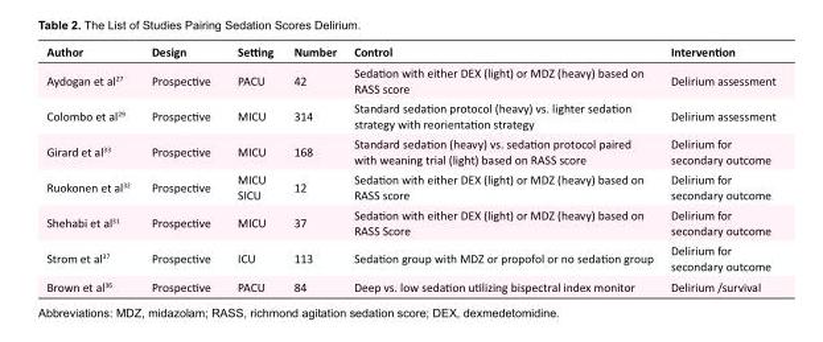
<table><tbody><tr><td>Author</td><td>Design</td><td>Setting</td><td>Number</td><td>Control</td><td>Intervention</td></tr><tr><td>Aydogan et al<sup>27</sup></td><td>Prospective</td><td>PACU</td><td>42</td><td>Sedation with either DEX (light) or MDZ (heavy) based on RASS score</td><td>Delirium assessment</td></tr><tr><td>Colombo et al<sup>29</sup></td><td>Prospective</td><td>MICU</td><td>314</td><td>Standard sedation protocol (heavy) vs. lighter sedation strategy with reorientation strategy</td><td>Delirium assessment</td></tr><tr><td>Girard et al<sup>33</sup></td><td>Prospective</td><td>MICU</td><td>168</td><td>Standard sedation (heavy) vs. sedation protocol paired with weaning trial (light) based on RASS score</td><td>Delirium for secondary outcome</td></tr><tr><td>Ruokonen et al<sup>32</sup></td><td>Prospective</td><td>MICU SICU</td><td>12</td><td>Sedation with either DEX (light) or MDZ (heavy) based on RASS score</td><td>Delirium for secondary outcome</td></tr><tr><td>Shehabi et al<sup>31</sup></td><td>Prospective</td><td>MICU</td><td>37</td><td>Sedation with either DEX (light) or MDZ (heavy) based on RASS Score</td><td>Delirium for secondary outcome</td></tr><tr><td>Strom et al<sup>37</sup></td><td>Prospective</td><td>ICU</td><td>113</td><td>Sedation group with MDZ or propofol or no sedation group</td><td>Delirium for secondary outcome</td></tr><tr><td>Brown et al<sup>36</sup></td><td>Prospective</td><td>PACU</td><td>84</td><td>Deep vs. low sedation utilizing bispectral index monitor</td><td>Delirium /survival</td></tr></tbody></table>